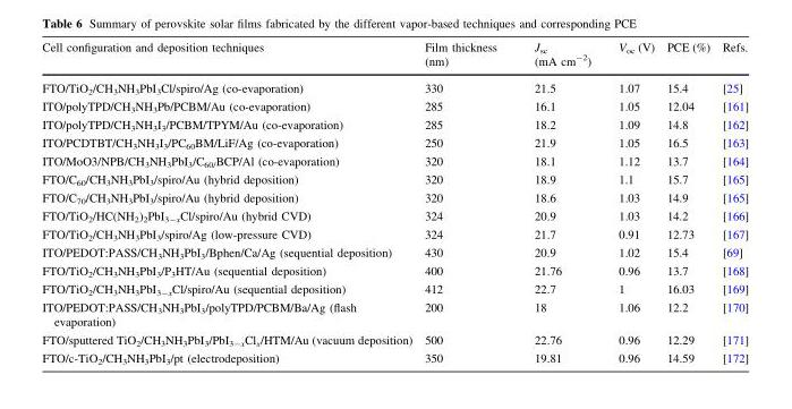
<table><thead><tr><td>Cell configuration and deposition techniques</td><td>Film thickness (nm)</td><td>J<sub>sc</sub> (mA cm<sup>-2</sup>)</td><td>V<sub>oc</sub> (V)</td><td>PCE (%)</td><td>Refs.</td></tr></thead><tbody><tr><td>FTO/TiO<sub>2</sub>/CH<sub>3</sub>NH<sub>3</sub>PbI<sub>3</sub>Cl/spiro/Ag (co-evaporation)</td><td>330</td><td>21.5</td><td>1.07</td><td>15.4</td><td>[25]</td></tr><tr><td>ITO/polyTPD/CH<sub>3</sub>NH<sub>3</sub>Pb/PCBM/Au (co-evaporation)</td><td>285</td><td>16.1</td><td>1.05</td><td>12.04</td><td>[161]</td></tr><tr><td>ITO/polyTPD/CH<sub>3</sub>NH<sub>3</sub>I<sub>3</sub>/PCBM/TPYM/Au (co-evaporation)</td><td>285</td><td>18.2</td><td>1.09</td><td>14.8</td><td>[162]</td></tr><tr><td>ITO/PCDTBT/CH<sub>3</sub>NH<sub>3</sub>I<sub>3</sub>/PC<sub>60</sub>BM/LiF/Ag (co-evaporation)</td><td>250</td><td>21.9</td><td>1.05</td><td>16.5</td><td>[163]</td></tr><tr><td>ITO/MoO3/NPB/CH<sub>3</sub>NH<sub>3</sub>PbI<sub>3</sub>/C<sub>60/</sub>BCP/Al (co-evaporation)</td><td>320</td><td>18.1</td><td>1.12</td><td>13.7</td><td>[164]</td></tr><tr><td>FTO/C<sub>60</sub>/CH<sub>3</sub>NH<sub>3</sub>PbI<sub>3</sub>/spiro/Au (hybrid deposition)</td><td>320</td><td>18.9</td><td>1.1</td><td>15.7</td><td>[165]</td></tr><tr><td>FTO/C<sub>70</sub>/CH<sub>3</sub>NH<sub>3</sub>PbI<sub>3</sub>/spiro/Au (hybrid deposition)</td><td>320</td><td>18.6</td><td>1.03</td><td>14.9</td><td>[165]</td></tr><tr><td>FTO/TiO<sub>2</sub>/HC(NH<sub>2</sub>)<sub>2</sub>PbI<sub>3-x</sub>Cl/spiro/Au (hybrid CVD)</td><td>324</td><td>20.9</td><td>1.03</td><td>14.2</td><td>[166]</td></tr><tr><td>FTO/TiO<sub>2</sub>/CH<sub>3</sub>NH<sub>3</sub>PbI<sub>3</sub>/spiro/Ag (low-pressure CVD)</td><td>324</td><td>21.7</td><td>0.91</td><td>12.73</td><td>[167]</td></tr><tr><td>ITO/PEDOT:PASS/CH<sub>3</sub>NH<sub>3</sub>PbI<sub>3</sub>/Bphen/Ca/Ag (sequential deposition)</td><td>430</td><td>20.9</td><td>1.02</td><td>15.4</td><td>[69]</td></tr><tr><td>FTO/TiO<sub>2</sub>/CH<sub>3</sub>NH<sub>3</sub>PbI<sub>3</sub>/P<sub>3</sub>HT/Au (sequential deposition)</td><td>400</td><td>21.76</td><td>0.96</td><td>13.7</td><td>[168]</td></tr><tr><td>FTO/TiO<sub>2</sub>/CH<sub>3</sub>NH<sub>3</sub>PbI<sub>3-x</sub>Cl/spiro/Au (sequential deposition)</td><td>412</td><td>22.7</td><td>1</td><td>16.03</td><td>[169]</td></tr><tr><td>ITO/PEDOT:PASS/CH<sub>3</sub>NH<sub>3</sub>PbI<sub>3</sub>/polyTPD/PCBM/Ba/Ag (flash evaporation)</td><td>200</td><td>18</td><td>1.06</td><td>12.2</td><td>[170]</td></tr><tr><td>FTO/sputtered TiO<sub>2</sub>/CH<sub>3</sub>NH<sub>3</sub>PbI<sub>3</sub>/PbI<sub>3-x</sub>Cl<sub>x</sub>/HTM/Au (vacuum deposition)</td><td>500</td><td>22.76</td><td>0.96</td><td>12.29</td><td>[171]</td></tr><tr><td>FTO/c-TiO<sub>2</sub>/CH<sub>3</sub>NH<sub>3</sub>PbI<sub>3</sub>/pt (electrodeposition)</td><td>350</td><td>19.81</td><td>0.96</td><td>14.59</td><td>[172]</td></tr></tbody></table>